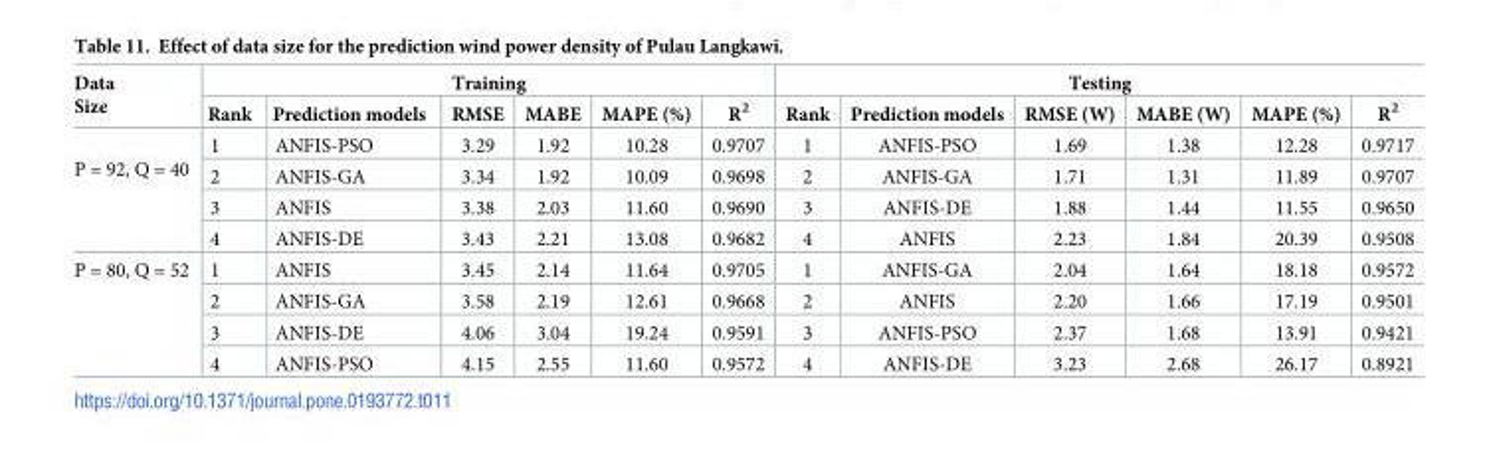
<table><thead><tr><td rowspan="2">Data Size</td><td colspan="6">Training</td><td colspan="6">Testing</td></tr><tr><td>Rank</td><td>Prediction models</td><td>RMSE</td><td>MABE</td><td>MAPE (%)</td><td>R<sup>2</sup></td><td>Rank</td><td>Prediction models</td><td>RMSE (W)</td><td>MABE (W)</td><td>MAPE (%)</td><td>R<sup>2</sup></td></tr></thead><tbody><tr><td rowspan="4">P = 92, Q = 40</td><td>1</td><td>ANFIS-PSO</td><td>3.29</td><td>1.92</td><td>10.28</td><td>0.9707</td><td>1</td><td>ANFIS-PSO</td><td>1.69</td><td>1.38</td><td>12.28</td><td>0.9717</td></tr><tr><td>2</td><td>ANFIS-GA</td><td>3.34</td><td>1.92</td><td>10.09</td><td>0.9698</td><td>2</td><td>ANFIS-GA</td><td>1.71</td><td>1.31</td><td>11.89</td><td>0.9707</td></tr><tr><td>3</td><td>ANFIS</td><td>3.38</td><td>2.03</td><td>11.60</td><td>0.9690</td><td>3</td><td>ANFIS-DE</td><td>1.88</td><td>1.44</td><td>11.55</td><td>0.9650</td></tr><tr><td>4</td><td>ANFIS-DE</td><td>3.43</td><td>2.21</td><td>13.08</td><td>0.9682</td><td>4</td><td>ANFIS</td><td>2.23</td><td>1.84</td><td>20.39</td><td>0.9508</td></tr><tr><td rowspan="4">P = 80, Q = 52</td><td>1</td><td>ANFIS</td><td>3.45</td><td>2.14</td><td>11.64</td><td>0.9705</td><td>1</td><td>ANFIS-GA</td><td>2.04</td><td>1.64</td><td>18.18</td><td>0.9572</td></tr><tr><td>2</td><td>ANFIS-GA</td><td>3.58</td><td>2.19</td><td>12.61</td><td>0.9668</td><td>2</td><td>ANFIS</td><td>2.20</td><td>1.66</td><td>17.19</td><td>0.9501</td></tr><tr><td>3</td><td>ANFIS-DE</td><td>4.06</td><td>3.04</td><td>19.24</td><td>0.9591</td><td>3</td><td>ANFIS-PSO</td><td>2.37</td><td>1.68</td><td>13.91</td><td>0.9421</td></tr><tr><td>4</td><td>ANFIS-PSO</td><td>4.15</td><td>2.55</td><td>11.60</td><td>0.9572</td><td>4</td><td>ANFIS-DE</td><td>3.23</td><td>2.68</td><td>26.17</td><td>0.8921</td></tr></tbody></table>